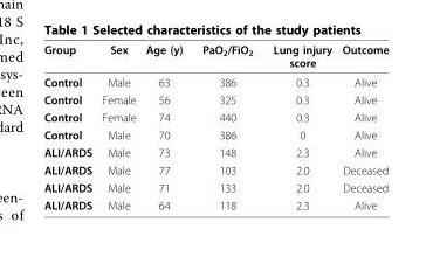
<table><thead><tr><td>Group</td><td>Sex</td><td>Age (y)</td><td>PaO<sub>2</sub>/FiO<sub>2</sub></td><td>Lung injury score</td><td>Outcome</td></tr></thead><tbody><tr><td>Control</td><td>Male</td><td>63</td><td>386</td><td>0.3</td><td>Alive</td></tr><tr><td>Control</td><td>Female</td><td>56</td><td>325</td><td>0.3</td><td>Alive</td></tr><tr><td>Control</td><td>Female</td><td>74</td><td>440</td><td>0.3</td><td>Alive</td></tr><tr><td>Control</td><td>Male</td><td>70</td><td>386</td><td>0</td><td>Alive</td></tr><tr><td>ALI/ARDS</td><td>Male</td><td>73</td><td>148</td><td>2.3</td><td>Alive</td></tr><tr><td>ALI/ARDS</td><td>Male</td><td>77</td><td>103</td><td>2.0</td><td>Deceased</td></tr><tr><td>ALI/ARDS</td><td>Male</td><td>71</td><td>133</td><td>2.0</td><td>Deceased</td></tr><tr><td>ALI/ARDS</td><td>Male</td><td>64</td><td>118</td><td>2.3</td><td>Alive</td></tr></tbody></table>